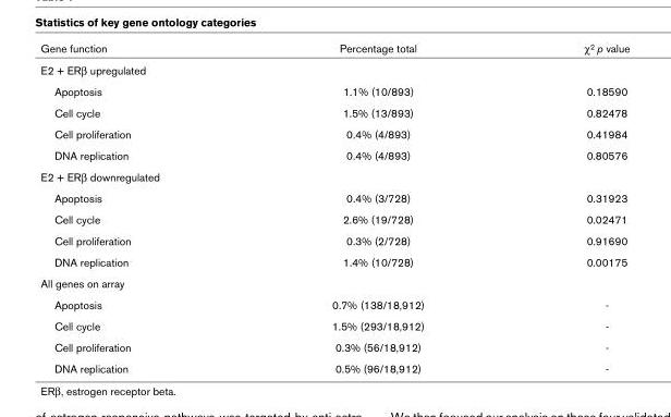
<table><thead><tr><td>Gene function</td><td>Percentage total</td><td>χ2 p value</td></tr></thead><tbody><tr><td colspan="3">E2 + ERβ upregulated</td></tr><tr><td>Apoptosis</td><td>1.1% (10/893)</td><td>0.18590</td></tr><tr><td>Cell cycle</td><td>1.5% (13/893)</td><td>0.82478</td></tr><tr><td>Cell proliferation</td><td>0.4% (4/893)</td><td>0.41984</td></tr><tr><td>DNA replication</td><td>0.4% (4/893)</td><td>0.80576</td></tr><tr><td colspan="3">E2 + ERβ downregulated</td></tr><tr><td>Apoptosis</td><td>0.4% (3/728)</td><td>0.31923</td></tr><tr><td>Cell cycle</td><td>2.6% (19/728)</td><td>0.02471</td></tr><tr><td>Cell proliferation</td><td>0.3% (2/728)</td><td>0.91690</td></tr><tr><td>DNA replication</td><td>1.4% (10/728)</td><td>0.00175</td></tr><tr><td colspan="3">All genes on array</td></tr><tr><td>Apoptosis</td><td>0.7% (138/18,912)</td><td>-</td></tr><tr><td>Cell cycle</td><td>1.5% (293/18,912)</td><td>-</td></tr><tr><td>Cell proliferation</td><td>0.3% (56/18,912)</td><td>-</td></tr><tr><td>DNA replication</td><td>0.5% (96/18,912)</td><td>-</td></tr></tbody></table>